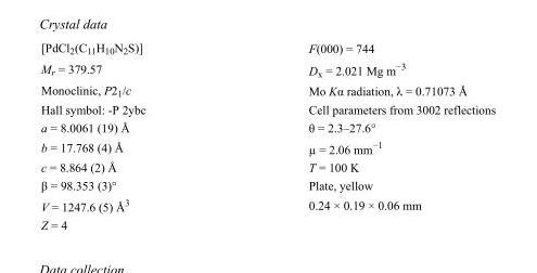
<table><tbody><tr><td>[PdCl<sub>2</sub>(C<sub>11</sub>H<sub>10</sub>N<sub>2</sub>S)]</td><td>F(000) = 744</td></tr><tr><td>M<sub>r</sub> = 379.57</td><td>D<sub>x</sub> = 2.021 Mg m<sup>−3</sup></td></tr><tr><td>Monoclinic, P2<sub>1</sub>/c</td><td>Mo Kα radiation, λ = 0.71073 Å</td></tr><tr><td>Hall symbol: -P 2ybc</td><td>Cell parameters from 3002 reflections</td></tr><tr><td>a = 8.0061 (19) Å</td><td>θ = 2.3–27.6°</td></tr><tr><td>b = 17.768 (4) Å</td><td>µ = 2.06 mm<sup>−1</sup></td></tr><tr><td>c = 8.864 (2) Å</td><td>T = 100 K</td></tr><tr><td>β = 98.353 (3)°</td><td>Plate, yellow</td></tr><tr><td>V = 1247.6 (5) Å<sup>3</sup></td><td>0.24 × 0.19 × 0.06 mm</td></tr><tr><td>Z = 4</td><td></td></tr></tbody></table>